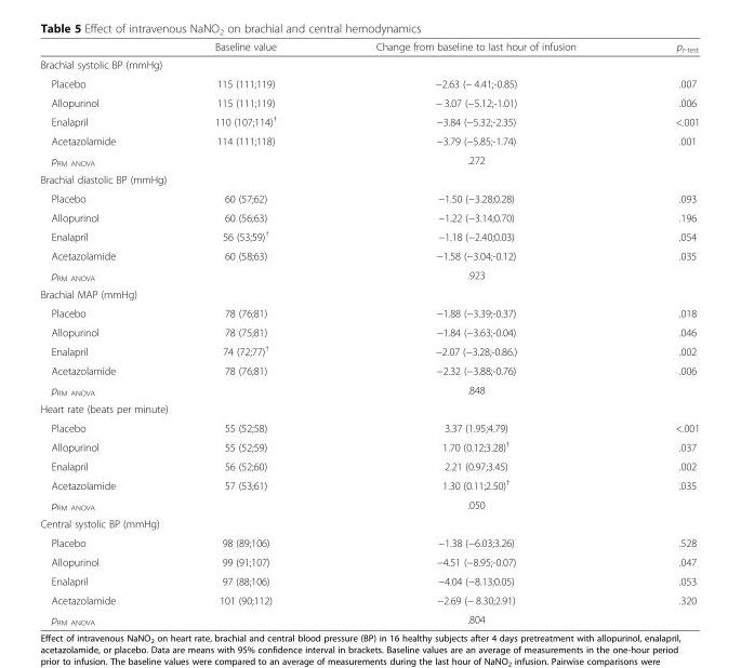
<table><thead><tr><td></td><td>Baseline value</td><td>Change from baseline to last hour of infusion</td><td>p<sub>t-test</sub></td></tr></thead><tbody><tr><td colspan="4">Brachial systolic BP (mmHg)</td></tr><tr><td>Placebo</td><td>115 (111;119)</td><td>−2.63 (− 4.41;-0.85)</td><td>.007</td></tr><tr><td>Allopurinol</td><td>115 (111;119)</td><td>− 3.07 (−5.12;-1.01)</td><td>.006</td></tr><tr><td>Enalapril</td><td>110 (107;114)<sup>†</sup></td><td>−3.84 (−5.32;-2.35)</td><td>&lt;.001</td></tr><tr><td>Acetazolamide</td><td>114 (111;118)</td><td>−3.79 (−5.85;-1.74)</td><td>.001</td></tr><tr><td>p<sub>RM ANOVA</sub></td><td></td><td>.272</td><td></td></tr><tr><td colspan="4">Brachial diastolic BP (mmHg)</td></tr><tr><td>Placebo</td><td>60 (57;62)</td><td>−1.50 (−3.28;0.28)</td><td>.093</td></tr><tr><td>Allopurinol</td><td>60 (56;63)</td><td>−1.22 (−3.14;0.70)</td><td>.196</td></tr><tr><td>Enalapril</td><td>56 (53;59)<sup>†</sup></td><td>−1.18 (−2.40;0.03)</td><td>.054</td></tr><tr><td>Acetazolamide</td><td>60 (58;63)</td><td>−1.58 (−3.04;-0.12)</td><td>.035</td></tr><tr><td>p<sub>RM ANOVA</sub></td><td></td><td>.923</td><td></td></tr><tr><td colspan="4">Brachial MAP (mmHg)</td></tr><tr><td>Placebo</td><td>78 (76;81)</td><td>−1.88 (−3.39;-0.37)</td><td>.018</td></tr><tr><td>Allopurinol</td><td>78 (75;81)</td><td>−1.84 (−3.63;-0.04)</td><td>.046</td></tr><tr><td>Enalapril</td><td>74 (72;77)<sup>†</sup></td><td>−2.07 (−3.28;-0.86.)</td><td>.002</td></tr><tr><td>Acetazolamide</td><td>78 (76;81)</td><td>−2.32 (−3.88;-0.76)</td><td>.006</td></tr><tr><td>p<sub>RM ANOVA</sub></td><td></td><td>.848</td><td></td></tr><tr><td colspan="4">Heart rate (beats per minute)</td></tr><tr><td>Placebo</td><td>55 (52;58)</td><td>3.37 (1.95;4.79)</td><td>&lt;.001</td></tr><tr><td>Allopurinol</td><td>55 (52;59)</td><td>1.70 (0.12;3.28)<sup>†</sup></td><td>.037</td></tr><tr><td>Enalapril</td><td>56 (52;60)</td><td>2.21 (0.97;3.45)</td><td>.002</td></tr><tr><td>Acetazolamide</td><td>57 (53;61)</td><td>1.30 (0.11;2.50)<sup>†</sup></td><td>.035</td></tr><tr><td>p<sub>RM ANOVA</sub></td><td></td><td>.050</td><td></td></tr><tr><td colspan="4">Central systolic BP (mmHg)</td></tr><tr><td>Placebo</td><td>98 (89;106)</td><td>−1.38 (−6.03;3.26)</td><td>.528</td></tr><tr><td>Allopurinol</td><td>99 (91;107)</td><td>−4.51 (−8.95;-0.07)</td><td>.047</td></tr><tr><td>Enalapril</td><td>97 (88;106)</td><td>−4.04 (−8.13;0.05)</td><td>.053</td></tr><tr><td>Acetazolamide</td><td>101 (90;112)</td><td>−2.69 (− 8.30;2.91)</td><td>.320</td></tr><tr><td>p<sub>RM ANOVA</sub></td><td></td><td>.804</td><td></td></tr></tbody></table>